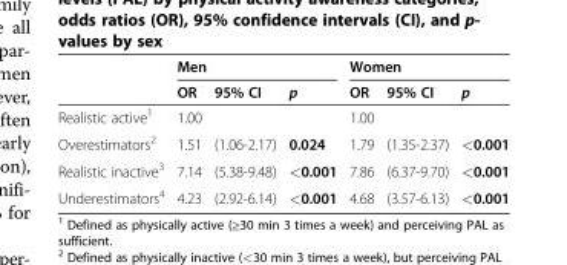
<table><thead><tr><td rowspan="2"></td><td colspan="3">Men</td><td colspan="3">Women</td></tr><tr><td>OR</td><td>95% CI</td><td>p</td><td>OR</td><td>95% CI</td><td>p</td></tr></thead><tbody><tr><td>Realistic active<sup>1</sup></td><td>1.00</td><td></td><td></td><td>1.00</td><td></td><td></td></tr><tr><td>Overestimators<sup>2</sup></td><td>1.51</td><td>(1.06-2.17)</td><td>0.024</td><td>1.79</td><td>(1.35-2.37)</td><td>&lt;0.001</td></tr><tr><td>Realistic inactive<sup>3</sup></td><td>7.14</td><td>(5.38-9.48)</td><td>&lt;0.001</td><td>7.86</td><td>(6.37-9.70)</td><td>&lt;0.001</td></tr><tr><td>Underestimators<sup>4</sup></td><td>4.23</td><td>(2.92-6.14)</td><td>&lt;0.001</td><td>4.68</td><td>(3.57-6.13)</td><td>&lt;0.001</td></tr></tbody></table>